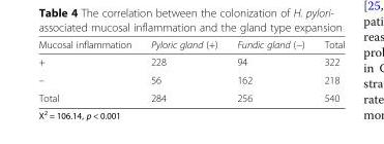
<table><thead><tr><td>Mucosal inflammation</td><td>Pyloric gland (+)</td><td>Fundic gland (−)</td><td>Total</td></tr></thead><tbody><tr><td>+</td><td>228</td><td>94</td><td>322</td></tr><tr><td>–</td><td>56</td><td>162</td><td>218</td></tr><tr><td>Total</td><td>284</td><td>256</td><td>540</td></tr></tbody></table>